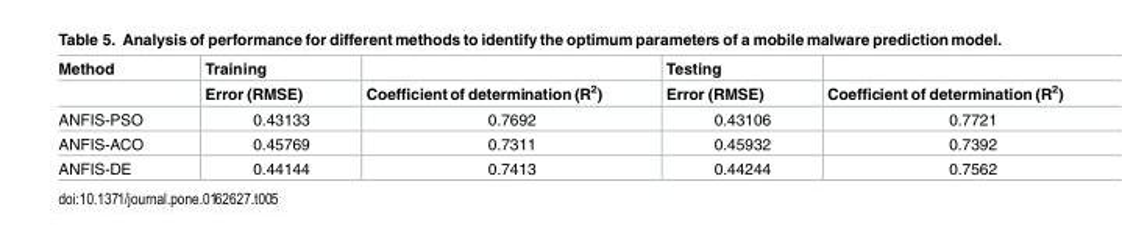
<table><thead><tr><td rowspan="2">Method</td><td rowspan="2">Training Error (RMSE)</td><td rowspan="2">Coefficient of determination (R<sup>2</sup>)</td><td rowspan="2">Testing Error (RMSE)</td><td rowspan="2">Coefficient of determination (R<sup>2</sup>)</td></tr><tr></tr></thead><tbody><tr><td>ANFIS-PSO</td><td>0.43133</td><td>0.7692</td><td>0.43106</td><td>0.7721</td></tr><tr><td>ANFIS-ACO</td><td>0.45769</td><td>0.7311</td><td>0.45932</td><td>0.7392</td></tr><tr><td>ANFIS-DE</td><td>0.44144</td><td>0.7413</td><td>0.44244</td><td>0.7562</td></tr></tbody></table>